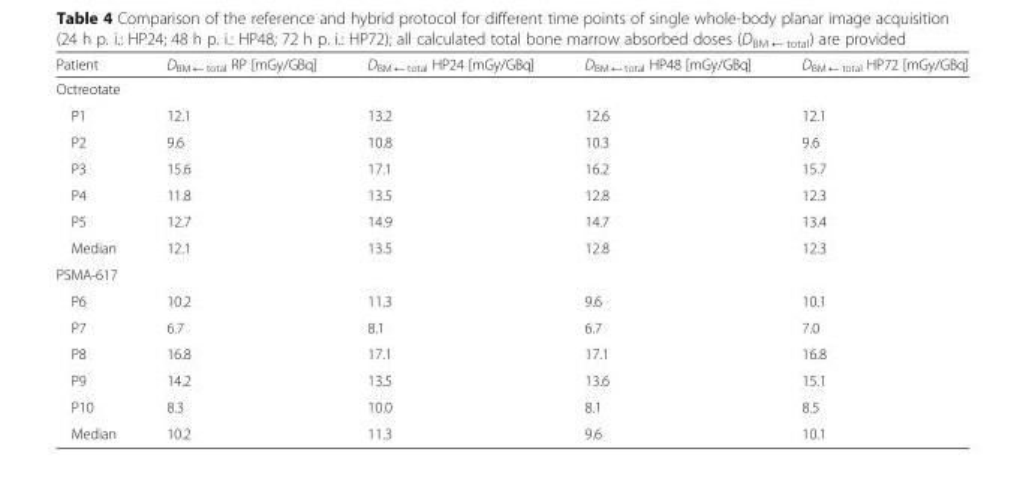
<table><thead><tr><td>Patient</td><td>D<sub>BM ← total</sub> RP [mGy/GBq]</td><td>D<sub>BM ← total</sub> HP24 [mGy/GBq]</td><td>D<sub>BM ← total</sub> HP48 [mGy/GBq]</td><td>D<sub>BM ← total</sub> HP72 [mGy/GBq]</td></tr></thead><tbody><tr><td colspan="5">Octreotate</td></tr><tr><td>P1</td><td>12.1</td><td>13.2</td><td>12.6</td><td>12.1</td></tr><tr><td>P2</td><td>9.6</td><td>10.8</td><td>10.3</td><td>9.6</td></tr><tr><td>P3</td><td>15.6</td><td>17.1</td><td>16.2</td><td>15.7</td></tr><tr><td>P4</td><td>11.8</td><td>13.5</td><td>12.8</td><td>12.3</td></tr><tr><td>P5</td><td>12.7</td><td>14.9</td><td>14.7</td><td>13.4</td></tr><tr><td>Median</td><td>12.1</td><td>13.5</td><td>12.8</td><td>12.3</td></tr><tr><td colspan="5">PSMA-617</td></tr><tr><td>P6</td><td>10.2</td><td>11.3</td><td>9.6</td><td>10.1</td></tr><tr><td>P7</td><td>6.7</td><td>8.1</td><td>6.7</td><td>7.0</td></tr><tr><td>P8</td><td>16.8</td><td>17.1</td><td>17.1</td><td>16.8</td></tr><tr><td>P9</td><td>14.2</td><td>13.5</td><td>13.6</td><td>15.1</td></tr><tr><td>P10</td><td>8.3</td><td>10.0</td><td>8.1</td><td>8.5</td></tr><tr><td>Median</td><td>10.2</td><td>11.3</td><td>9.6</td><td>10.1</td></tr></tbody></table>